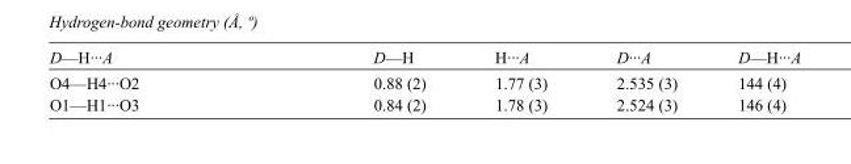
<table><tbody><tr><td>D—H···A</td><td>D—H</td><td>H···A</td><td>D···A</td><td>D—H···A</td></tr><tr><td>O4—H4···O2</td><td>0.88 (2)</td><td>1.77 (3)</td><td>2.535 (3)</td><td>144 (4)</td></tr><tr><td>O1—H1···O3</td><td>0.84 (2)</td><td>1.78 (3)</td><td>2.524 (3)</td><td>146 (4)</td></tr></tbody></table>